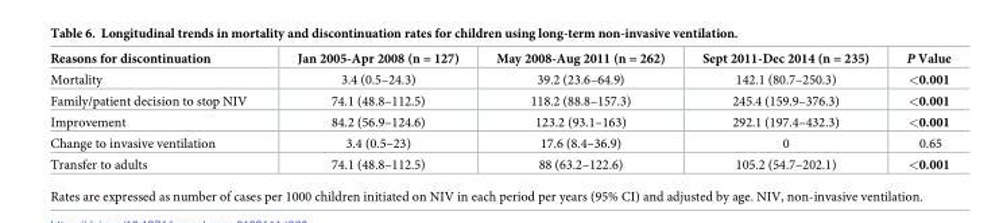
<table><thead><tr><td>Reasons for discontinuation</td><td>Jan 2005-Apr 2008 (n = 127)</td><td>May 2008-Aug 2011 (n = 262)</td><td>Sept 2011-Dec 2014 (n = 235)</td><td>P Value</td></tr></thead><tbody><tr><td>Mortality</td><td>3.4 (0.5–24.3)</td><td>39.2 (23.6–64.9)</td><td>142.1 (80.7–250.3)</td><td>&lt;0.001</td></tr><tr><td>Family/patient decision to stop NIV</td><td>74.1 (48.8–112.5)</td><td>118.2 (88.8–157.3)</td><td>245.4 (159.9–376.3)</td><td>&lt;0.001</td></tr><tr><td>Improvement</td><td>84.2 (56.9–124.6)</td><td>123.2 (93.1–163)</td><td>292.1 (197.4–432.3)</td><td>&lt;0.001</td></tr><tr><td>Change to invasive ventilation</td><td>3.4 (0.5–23)</td><td>17.6 (8.4–36.9)</td><td>0</td><td>0.65</td></tr><tr><td>Transfer to adults</td><td>74.1 (48.8–112.5)</td><td>88 (63.2–122.6)</td><td>105.2 (54.7–202.1)</td><td>&lt;0.001</td></tr></tbody></table>